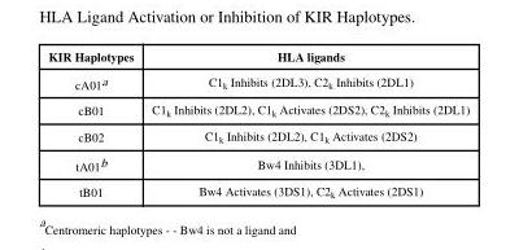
<table><thead><tr><td>KIR Haplotypes</td><td>HLA ligands</td></tr></thead><tbody><tr><td>cA01<sup>a</sup></td><td>C1<sub>k</sub> Inhibits (2DL3), C2<sub>k</sub> Inhibits (2DL1)</td></tr><tr><td>cB01</td><td>C1<sub>k</sub> Inhibits (2DL2), C1<sub>k</sub> Activates (2DS2), C2<sub>k</sub> Inhibits (2DL1)</td></tr><tr><td>cB02</td><td>C1<sub>k</sub> Inhibits (2DL2), C1<sub>k</sub> Activates (2DS2)</td></tr><tr><td>tA01<sup>b</sup></td><td>Bw4 Inhibits (3DL1),</td></tr><tr><td>tB01</td><td>Bw4 Activates (3DS1), C2<sub>k</sub> Activates (2DS1)</td></tr></tbody></table>